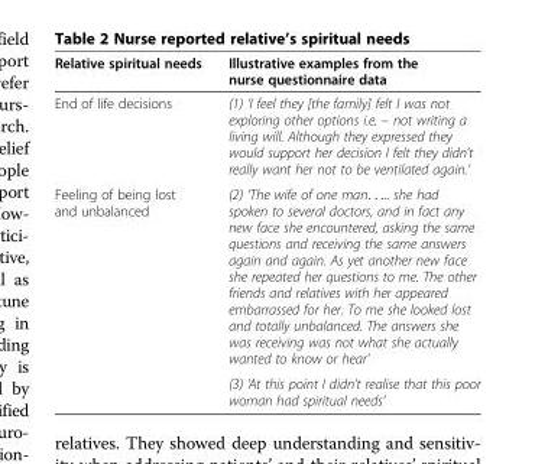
<table><thead><tr><td>Relative spiritual needs</td><td>Illustrative examples from the nurse questionnaire data</td></tr></thead><tbody><tr><td>End of life decisions</td><td>(1) ‘I feel they [the family] felt I was not exploring other options i.e. – not writing a living will. Although they expressed they would support her decision I felt they didn’t really want her not to be ventilated again.’</td></tr><tr><td rowspan="2">Feeling of being lost and unbalanced</td><td>(2) ‘The wife of one man. . ... she had spoken to several doctors, and in fact any new face she encountered, asking the same questions and receiving the same answers again and again. As yet another new face she repeated her questions to me. The other friends and relatives with her appeared embarrassed for her. To me she looked lost and totally unbalanced. The answers she was receiving was not what she actually wanted to know or hear’</td></tr><tr><td>(3) ‘At this point I didn’t realise that this poor woman had spiritual needs’</td></tr></tbody></table>